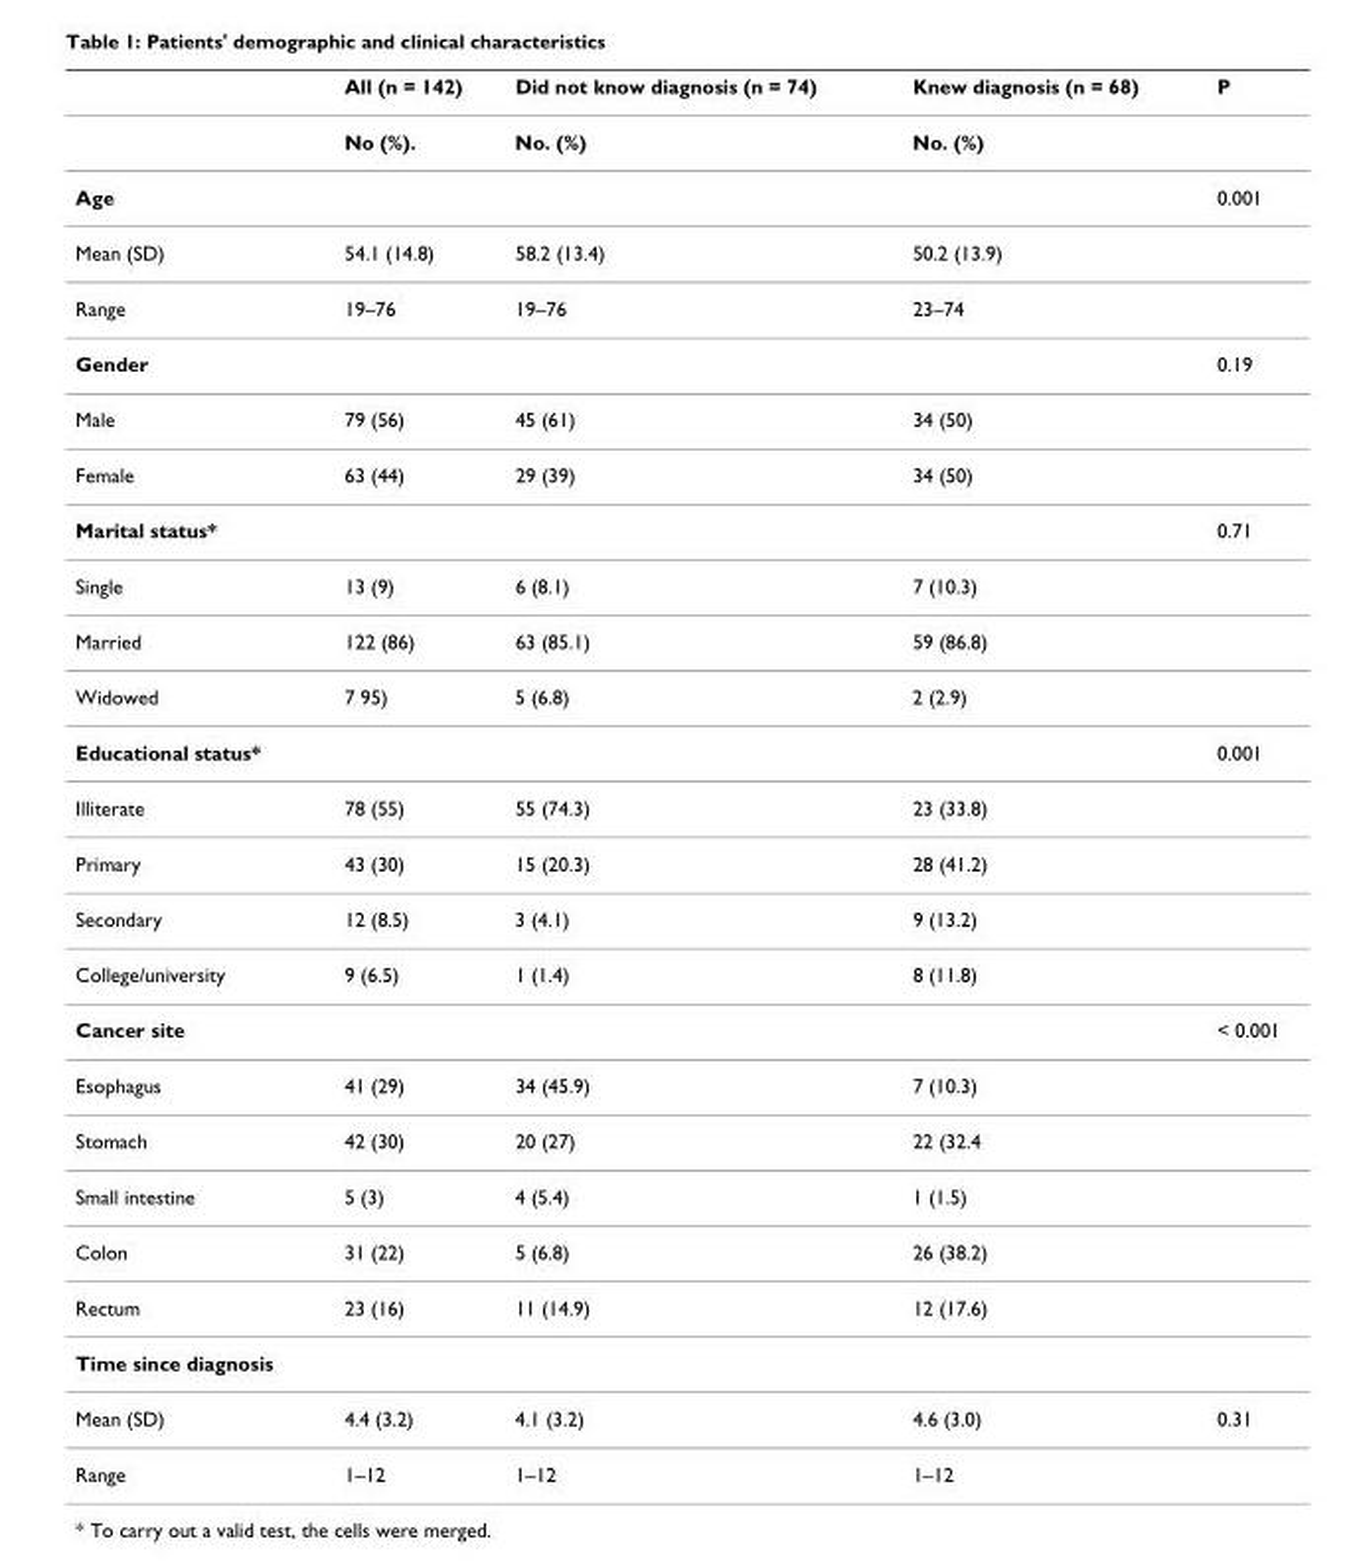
<table><thead><tr><td></td><td>All (n = 142)</td><td>Did not know diagnosis (n = 74)</td><td>Knew diagnosis (n = 68)</td><td>P</td></tr></thead><tbody><tr><td></td><td>No (%).</td><td>No. (%)</td><td>No. (%)</td><td></td></tr><tr><td>Age</td><td></td><td></td><td></td><td>0.001</td></tr><tr><td>Mean (SD)</td><td>54.1 (14.8)</td><td>58.2 (13.4)</td><td>50.2 (13.9)</td><td></td></tr><tr><td>Range</td><td>19–76</td><td>19–76</td><td>23–74</td><td></td></tr><tr><td>Gender</td><td></td><td></td><td></td><td>0.19</td></tr><tr><td>Male</td><td>79 (56)</td><td>45 (61)</td><td>34 (50)</td><td></td></tr><tr><td>Female</td><td>63 (44)</td><td>29 (39)</td><td>34 (50)</td><td></td></tr><tr><td>Marital status*</td><td></td><td></td><td></td><td>0.71</td></tr><tr><td>Single</td><td>13 (9)</td><td>6 (8.1)</td><td>7 (10.3)</td><td></td></tr><tr><td>Married</td><td>122 (86)</td><td>63 (85.1)</td><td>59 (86.8)</td><td></td></tr><tr><td>Widowed</td><td>7 95)</td><td>5 (6.8)</td><td>2 (2.9)</td><td></td></tr><tr><td>Educational status*</td><td></td><td></td><td></td><td>0.001</td></tr><tr><td>Illiterate</td><td>78 (55)</td><td>55 (74.3)</td><td>23 (33.8)</td><td></td></tr><tr><td>Primary</td><td>43 (30)</td><td>15 (20.3)</td><td>28 (41.2)</td><td></td></tr><tr><td>Secondary</td><td>12 (8.5)</td><td>3 (4.1)</td><td>9 (13.2)</td><td></td></tr><tr><td>College/university</td><td>9 (6.5)</td><td>1 (1.4)</td><td>8 (11.8)</td><td></td></tr><tr><td>Cancer site</td><td></td><td></td><td></td><td>&lt; 0.001</td></tr><tr><td>Esophagus</td><td>41 (29)</td><td>34 (45.9)</td><td>7 (10.3)</td><td></td></tr><tr><td>Stomach</td><td>42 (30)</td><td>20 (27)</td><td>22 (32.4</td><td></td></tr><tr><td>Small intestine</td><td>5 (3)</td><td>4 (5.4)</td><td>1 (1.5)</td><td></td></tr><tr><td>Colon</td><td>31 (22)</td><td>5 (6.8)</td><td>26 (38.2)</td><td></td></tr><tr><td>Rectum</td><td>23 (16)</td><td>11 (14.9)</td><td>12 (17.6)</td><td></td></tr><tr><td colspan="5">Time since diagnosis</td></tr><tr><td>Mean (SD)</td><td>4.4 (3.2)</td><td>4.1 (3.2)</td><td>4.6 (3.0)</td><td>0.31</td></tr><tr><td>Range</td><td>1–12</td><td>1–12</td><td>1–12</td><td></td></tr></tbody></table>